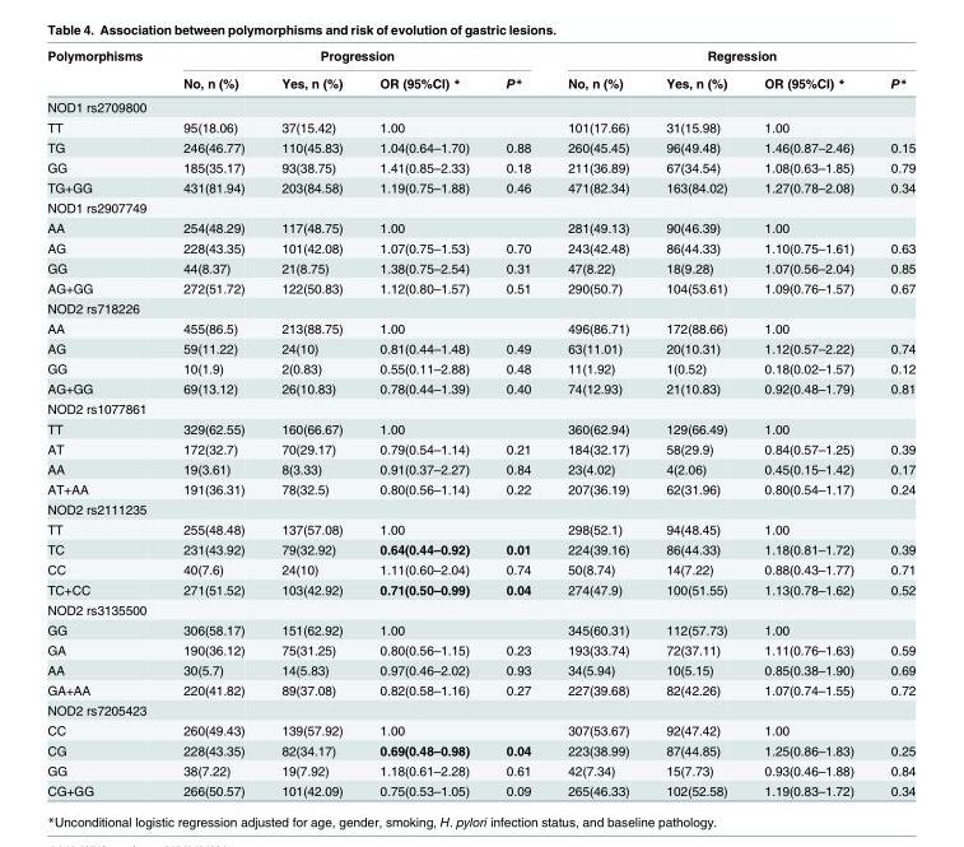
<table><thead><tr><td rowspan="2">Polymorphisms</td><td colspan="4">Progression</td><td colspan="4">Regression</td></tr><tr><td>No, n (%)</td><td>Yes, n (%)</td><td>OR (95%CI) *</td><td>P*</td><td>No, n (%)</td><td>Yes, n (%)</td><td>OR (95%CI) *</td><td>P*</td></tr></thead><tbody><tr><td colspan="9">NOD1 rs2709800</td></tr><tr><td>TT</td><td>95(18.06)</td><td>37(15.42)</td><td>1.00</td><td></td><td>101(17.66)</td><td>31(15.98)</td><td>1.00</td><td></td></tr><tr><td>TG</td><td>246(46.77)</td><td>110(45.83)</td><td>1.04(0.64–1.70)</td><td>0.88</td><td>260(45.45)</td><td>96(49.48)</td><td>1.46(0.87–2.46)</td><td>0.15</td></tr><tr><td>GG</td><td>185(35.17)</td><td>93(38.75)</td><td>1.41(0.85–2.33)</td><td>0.18</td><td>211(36.89)</td><td>67(34.54)</td><td>1.08(0.63–1.85)</td><td>0.79</td></tr><tr><td>TG+GG</td><td>431(81.94)</td><td>203(84.58)</td><td>1.19(0.75–1.88)</td><td>0.46</td><td>471(82.34)</td><td>163(84.02)</td><td>1.27(0.78–2.08)</td><td>0.34</td></tr><tr><td colspan="9">NOD1 rs2907749</td></tr><tr><td>AA</td><td>254(48.29)</td><td>117(48.75)</td><td>1.00</td><td></td><td>281(49.13)</td><td>90(46.39)</td><td>1.00</td><td></td></tr><tr><td>AG</td><td>228(43.35)</td><td>101(42.08)</td><td>1.07(0.75–1.53)</td><td>0.70</td><td>243(42.48)</td><td>86(44.33)</td><td>1.10(0.75–1.61)</td><td>0.63</td></tr><tr><td>GG</td><td>44(8.37)</td><td>21(8.75)</td><td>1.38(0.75–2.54)</td><td>0.31</td><td>47(8.22)</td><td>18(9.28)</td><td>1.07(0.56–2.04)</td><td>0.85</td></tr><tr><td>AG+GG</td><td>272(51.72)</td><td>122(50.83)</td><td>1.12(0.80–1.57)</td><td>0.51</td><td>290(50.7)</td><td>104(53.61)</td><td>1.09(0.76–1.57)</td><td>0.67</td></tr><tr><td colspan="9">NOD2 rs718226</td></tr><tr><td>AA</td><td>455(86.5)</td><td>213(88.75)</td><td>1.00</td><td></td><td>496(86.71)</td><td>172(88.66)</td><td>1.00</td><td></td></tr><tr><td>AG</td><td>59(11.22)</td><td>24(10)</td><td>0.81(0.44–1.48)</td><td>0.49</td><td>63(11.01)</td><td>20(10.31)</td><td>1.12(0.57–2.22)</td><td>0.74</td></tr><tr><td>GG</td><td>10(1.9)</td><td>2(0.83)</td><td>0.55(0.11–2.88)</td><td>0.48</td><td>11(1.92)</td><td>1(0.52)</td><td>0.18(0.02–1.57)</td><td>0.12</td></tr><tr><td>AG+GG</td><td>69(13.12)</td><td>26(10.83)</td><td>0.78(0.44–1.39)</td><td>0.40</td><td>74(12.93)</td><td>21(10.83)</td><td>0.92(0.48–1.79)</td><td>0.81</td></tr><tr><td colspan="9">NOD2 rs1077861</td></tr><tr><td>TT</td><td>329(62.55)</td><td>160(66.67)</td><td>1.00</td><td></td><td>360(62.94)</td><td>129(66.49)</td><td>1.00</td><td></td></tr><tr><td>AT</td><td>172(32.7)</td><td>70(29.17)</td><td>0.79(0.54–1.14)</td><td>0.21</td><td>184(32.17)</td><td>58(29.9)</td><td>0.84(0.57–1.25)</td><td>0.39</td></tr><tr><td>AA</td><td>19(3.61)</td><td>8(3.33)</td><td>0.91(0.37–2.27)</td><td>0.84</td><td>23(4.02)</td><td>4(2.06)</td><td>0.45(0.15–1.42)</td><td>0.17</td></tr><tr><td>AT+AA</td><td>191(36.31)</td><td>78(32.5)</td><td>0.80(0.56–1.14)</td><td>0.22</td><td>207(36.19)</td><td>62(31.96)</td><td>0.80(0.54–1.17)</td><td>0.24</td></tr><tr><td colspan="9">NOD2 rs2111235</td></tr><tr><td>TT</td><td>255(48.48)</td><td>137(57.08)</td><td>1.00</td><td></td><td>298(52.1)</td><td>94(48.45)</td><td>1.00</td><td></td></tr><tr><td>TC</td><td>231(43.92)</td><td>79(32.92)</td><td>0.64(0.44–0.92)</td><td>0.01</td><td>224(39.16)</td><td>86(44.33)</td><td>1.18(0.81–1.72)</td><td>0.39</td></tr><tr><td>CC</td><td>40(7.6)</td><td>24(10)</td><td>1.11(0.60–2.04)</td><td>0.74</td><td>50(8.74)</td><td>14(7.22)</td><td>0.88(0.43–1.77)</td><td>0.71</td></tr><tr><td>TC+CC</td><td>271(51.52)</td><td>103(42.92)</td><td>0.71(0.50–0.99)</td><td>0.04</td><td>274(47.9)</td><td>100(51.55)</td><td>1.13(0.78–1.62)</td><td>0.52</td></tr><tr><td colspan="9">NOD2 rs3135500</td></tr><tr><td>GG</td><td>306(58.17)</td><td>151(62.92)</td><td>1.00</td><td></td><td>345(60.31)</td><td>112(57.73)</td><td>1.00</td><td></td></tr><tr><td>GA</td><td>190(36.12)</td><td>75(31.25)</td><td>0.80(0.56–1.15)</td><td>0.23</td><td>193(33.74)</td><td>72(37.11)</td><td>1.11(0.76–1.63)</td><td>0.59</td></tr><tr><td>AA</td><td>30(5.7)</td><td>14(5.83)</td><td>0.97(0.46–2.02)</td><td>0.93</td><td>34(5.94)</td><td>10(5.15)</td><td>0.85(0.38–1.90)</td><td>0.69</td></tr><tr><td>GA+AA</td><td>220(41.82)</td><td>89(37.08)</td><td>0.82(0.58–1.16)</td><td>0.27</td><td>227(39.68)</td><td>82(42.26)</td><td>1.07(0.74–1.55)</td><td>0.72</td></tr><tr><td colspan="9">NOD2 rs7205423</td></tr><tr><td>CC</td><td>260(49.43)</td><td>139(57.92)</td><td>1.00</td><td></td><td>307(53.67)</td><td>92(47.42)</td><td>1.00</td><td></td></tr><tr><td>CG</td><td>228(43.35)</td><td>82(34.17)</td><td>0.69(0.48–0.98)</td><td>0.04</td><td>223(38.99)</td><td>87(44.85)</td><td>1.25(0.86–1.83)</td><td>0.25</td></tr><tr><td>GG</td><td>38(7.22)</td><td>19(7.92)</td><td>1.18(0.61–2.28)</td><td>0.61</td><td>42(7.34)</td><td>15(7.73)</td><td>0.93(0.46–1.88)</td><td>0.84</td></tr><tr><td>CG+GG</td><td>266(50.57)</td><td>101(42.09)</td><td>0.75(0.53–1.05)</td><td>0.09</td><td>265(46.33)</td><td>102(52.58)</td><td>1.19(0.83–1.72)</td><td>0.34</td></tr></tbody></table>